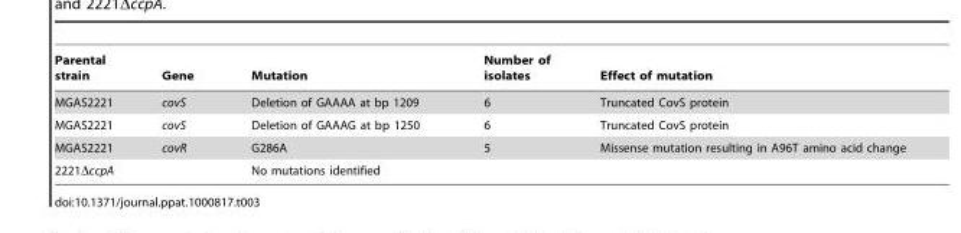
<table><thead><tr><td>Parental strain</td><td>Gene</td><td>Mutation</td><td>Number of isolates</td><td>Effect of mutation</td></tr></thead><tbody><tr><td>MGAS2221</td><td>covS</td><td>Deletion of GAAAA at bp 1209</td><td>6</td><td>Truncated CovS protein</td></tr><tr><td>MGAS2221</td><td>covS</td><td>Deletion of GAAAG at bp 1250</td><td>6</td><td>Truncated CovS protein</td></tr><tr><td>MGAS2221</td><td>covR</td><td>G286A</td><td>5</td><td>Missense mutation resulting in A96T amino acid change</td></tr><tr><td>2221ΔccpA</td><td></td><td>No mutations identified</td><td></td><td></td></tr></tbody></table>